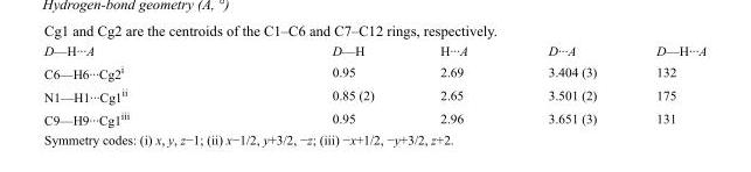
<table><tbody><tr><td>D—H···A</td><td>D—H</td><td>H···A</td><td>D···A</td><td>D—H···A</td></tr><tr><td>C6—H6···Cg2<sup>i</sup></td><td>0.95</td><td>2.69</td><td>3.404 (3)</td><td>132</td></tr><tr><td>N1—H1···Cg1<sup>ii</sup></td><td>0.85 (2)</td><td>2.65</td><td>3.501 (2)</td><td>175</td></tr><tr><td>C9—H9···Cg1<sup>iii</sup></td><td>0.95</td><td>2.96</td><td>3.651 (3)</td><td>131</td></tr></tbody></table>